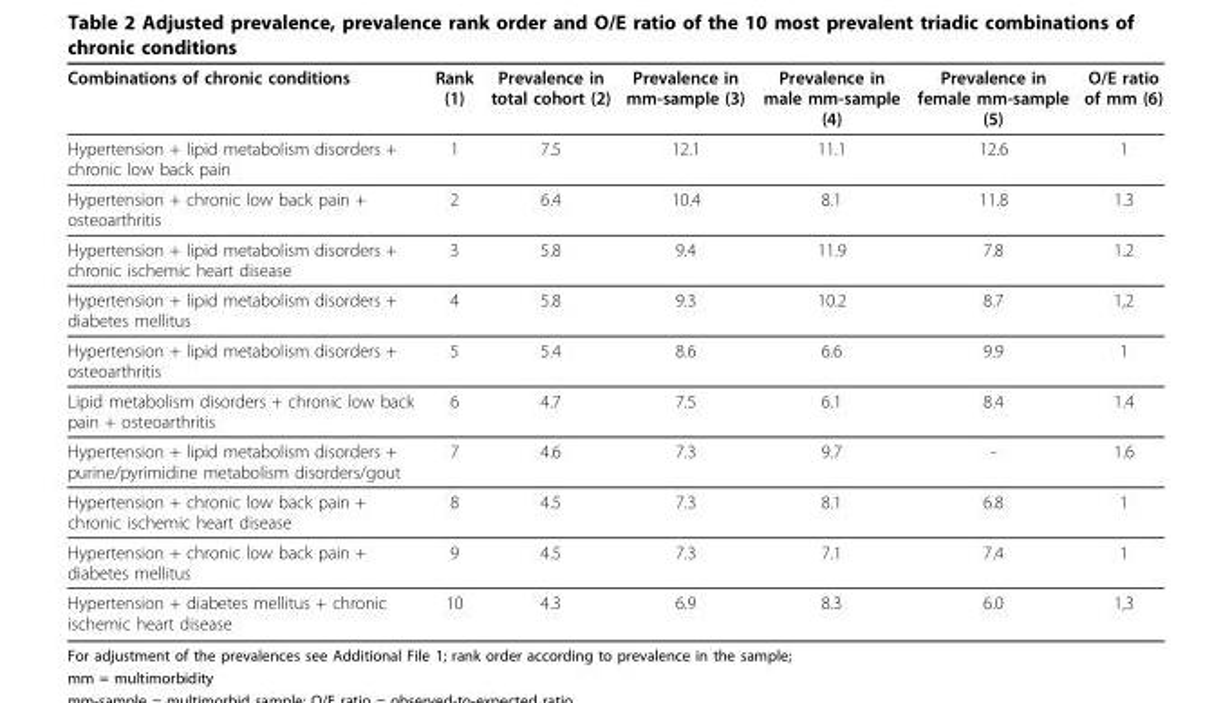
<table><thead><tr><td>Combinations of chronic conditions</td><td>Rank (1)</td><td>Prevalence in total cohort (2)</td><td>Prevalence in mm-sample (3)</td><td>Prevalence in male mm-sample (4)</td><td>Prevalence in female mm-sample (5)</td><td>O/E ratio of mm (6)</td></tr></thead><tbody><tr><td>Hypertension + lipid metabolism disorders + chronic low back pain</td><td>1</td><td>7.5</td><td>12.1</td><td>11.1</td><td>12.6</td><td>1</td></tr><tr><td>Hypertension + chronic low back pain + osteoarthritis</td><td>2</td><td>6.4</td><td>10.4</td><td>8.1</td><td>11.8</td><td>1.3</td></tr><tr><td>Hypertension + lipid metabolism disorders + chronic ischemic heart disease</td><td>3</td><td>5.8</td><td>9.4</td><td>11.9</td><td>7.8</td><td>1.2</td></tr><tr><td>Hypertension + lipid metabolism disorders + diabetes mellitus</td><td>4</td><td>5.8</td><td>9.3</td><td>10.2</td><td>8.7</td><td>1,2</td></tr><tr><td>Hypertension + lipid metabolism disorders + osteoarthritis</td><td>5</td><td>5.4</td><td>8.6</td><td>6.6</td><td>9.9</td><td>1</td></tr><tr><td>Lipid metabolism disorders + chronic low back pain + osteoarthritis</td><td>6</td><td>4.7</td><td>7.5</td><td>6.1</td><td>8.4</td><td>1.4</td></tr><tr><td>Hypertension + lipid metabolism disorders + purine/pyrimidine metabolism disorders/gout</td><td>7</td><td>4.6</td><td>7.3</td><td>9.7</td><td>-</td><td>1.6</td></tr><tr><td>Hypertension + chronic low back pain + chronic ischemic heart disease</td><td>8</td><td>4.5</td><td>7.3</td><td>8.1</td><td>6.8</td><td>1</td></tr><tr><td>Hypertension + chronic low back pain + diabetes mellitus</td><td>9</td><td>4.5</td><td>7.3</td><td>7.1</td><td>7.4</td><td>1</td></tr><tr><td>Hypertension + diabetes mellitus + chronic ischemic heart disease</td><td>10</td><td>4.3</td><td>6.9</td><td>8.3</td><td>6.0</td><td>1,3</td></tr></tbody></table>